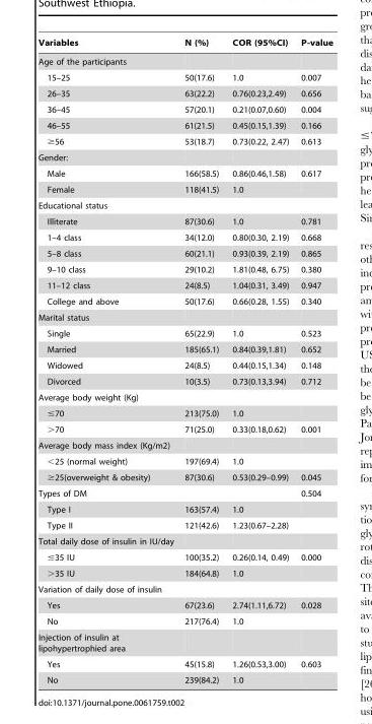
<table><thead><tr><td>Variables</td><td>N (%)</td><td>COR (95%CI)</td><td>P-value</td></tr></thead><tbody><tr><td colspan="4">Age of the participants</td></tr><tr><td>15–25</td><td>50(17.6)</td><td>1.0</td><td>0.007</td></tr><tr><td>26–35</td><td>63(22.2)</td><td>0.76(0.23,2.49)</td><td>0.656</td></tr><tr><td>36–45</td><td>57(20.1)</td><td>0.21(0.07,0.60)</td><td>0.004</td></tr><tr><td>46–55</td><td>61(21.5)</td><td>0.45(0.15,1.39)</td><td>0.166</td></tr><tr><td>≥56</td><td>53(18.7)</td><td>0.73(0.22, 2.47)</td><td>0.613</td></tr><tr><td colspan="4">Gender:</td></tr><tr><td>Male</td><td>166(58.5)</td><td>0.86(0.46,1.58)</td><td>0.617</td></tr><tr><td>Female</td><td>118(41.5)</td><td>1.0</td><td></td></tr><tr><td colspan="4">Educational status</td></tr><tr><td>Illiterate</td><td>87(30.6)</td><td>1.0</td><td>0.781</td></tr><tr><td>1–4 class</td><td>34(12.0)</td><td>0.80(0.30, 2.19)</td><td>0.668</td></tr><tr><td>5–8 class</td><td>60(21.1)</td><td>0.93(0.39, 2.19)</td><td>0.865</td></tr><tr><td>9–10 class</td><td>29(10.2)</td><td>1.81(0.48, 6.75)</td><td>0.380</td></tr><tr><td>11–12 class</td><td>24(8.5)</td><td>1.04(0.31, 3.49)</td><td>0.947</td></tr><tr><td>College and above</td><td>50(17.6)</td><td>0.66(0.28, 1.55)</td><td>0.340</td></tr><tr><td colspan="4">Marital status</td></tr><tr><td>Single</td><td>65(22.9)</td><td>1.0</td><td>0.523</td></tr><tr><td>Married</td><td>185(65.1)</td><td>0.84(0.39,1.81)</td><td>0.652</td></tr><tr><td>Widowed</td><td>24(8.5)</td><td>0.44(0.15,1.34)</td><td>0.148</td></tr><tr><td>Divorced</td><td>10(3.5)</td><td>0.73(0.13,3.94)</td><td>0.712</td></tr><tr><td colspan="4">Average body weight (Kg)</td></tr><tr><td>≤70</td><td>213(75.0)</td><td>1.0</td><td></td></tr><tr><td>&gt;70</td><td>71(25.0)</td><td>0.33(0.18,0.62)</td><td>0.001</td></tr><tr><td colspan="4">Average body mass index (Kg/m2)</td></tr><tr><td>&lt;25 (normal weight)</td><td>197(69.4)</td><td>1.0</td><td></td></tr><tr><td>≥25(overweight &amp; obesity)</td><td>87(30.6)</td><td>0.53(0.29–0.99)</td><td>0.045</td></tr><tr><td>Types of DM</td><td></td><td></td><td>0.504</td></tr><tr><td>Type I</td><td>163(57.4)</td><td>1.0</td><td></td></tr><tr><td>Type II</td><td>121(42.6)</td><td>1.23(0.67–2.28)</td><td></td></tr><tr><td colspan="4">Total daily dose of insulin in IU/day</td></tr><tr><td>≤35 IU</td><td>100(35.2)</td><td>0.26(0.14, 0.49)</td><td>0.000</td></tr><tr><td>&gt;35 IU</td><td>184(64.8)</td><td>1.0</td><td></td></tr><tr><td colspan="4">Variation of daily dose of insulin</td></tr><tr><td>Yes</td><td>67(23.6)</td><td>2.74(1.11,6.72)</td><td>0.028</td></tr><tr><td>No</td><td>217(76.4)</td><td>1.0</td><td></td></tr><tr><td colspan="4">Injection of insulin at lipohypertrophied area</td></tr><tr><td>Yes</td><td>45(15.8)</td><td>1.26(0.53,3.00)</td><td>0.603</td></tr><tr><td>No</td><td>239(84.2)</td><td>1.0</td><td></td></tr></tbody></table>